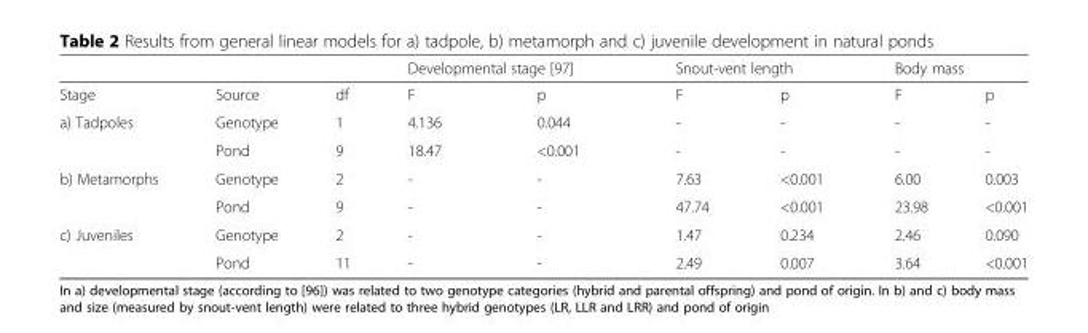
<table><thead><tr><td rowspan="2">Stage</td><td rowspan="2">Source</td><td rowspan="2">df</td><td colspan="2">Developmental stage [97]</td><td colspan="2">Snout-vent length</td><td colspan="2">Body mass</td></tr><tr><td>F</td><td>p</td><td>F</td><td>p</td><td>F</td><td>p</td></tr></thead><tbody><tr><td rowspan="2">a) Tadpoles</td><td>Genotype</td><td>1</td><td>4.136</td><td>0.044</td><td>-</td><td>-</td><td>-</td><td>-</td></tr><tr><td>Pond</td><td>9</td><td>18.47</td><td>&lt;0.001</td><td>-</td><td>-</td><td>-</td><td>-</td></tr><tr><td rowspan="2">b) Metamorphs</td><td>Genotype</td><td>2</td><td>-</td><td>-</td><td>7.63</td><td>&lt;0.001</td><td>6.00</td><td>0.003</td></tr><tr><td>Pond</td><td>9</td><td>-</td><td>-</td><td>47.74</td><td>&lt;0.001</td><td>23.98</td><td>&lt;0.001</td></tr><tr><td rowspan="2">c) Juveniles</td><td>Genotype</td><td>2</td><td>-</td><td>-</td><td>1.47</td><td>0.234</td><td>2.46</td><td>0.090</td></tr><tr><td>Pond</td><td>11</td><td>-</td><td>-</td><td>2.49</td><td>0.007</td><td>3.64</td><td>&lt;0.001</td></tr></tbody></table>